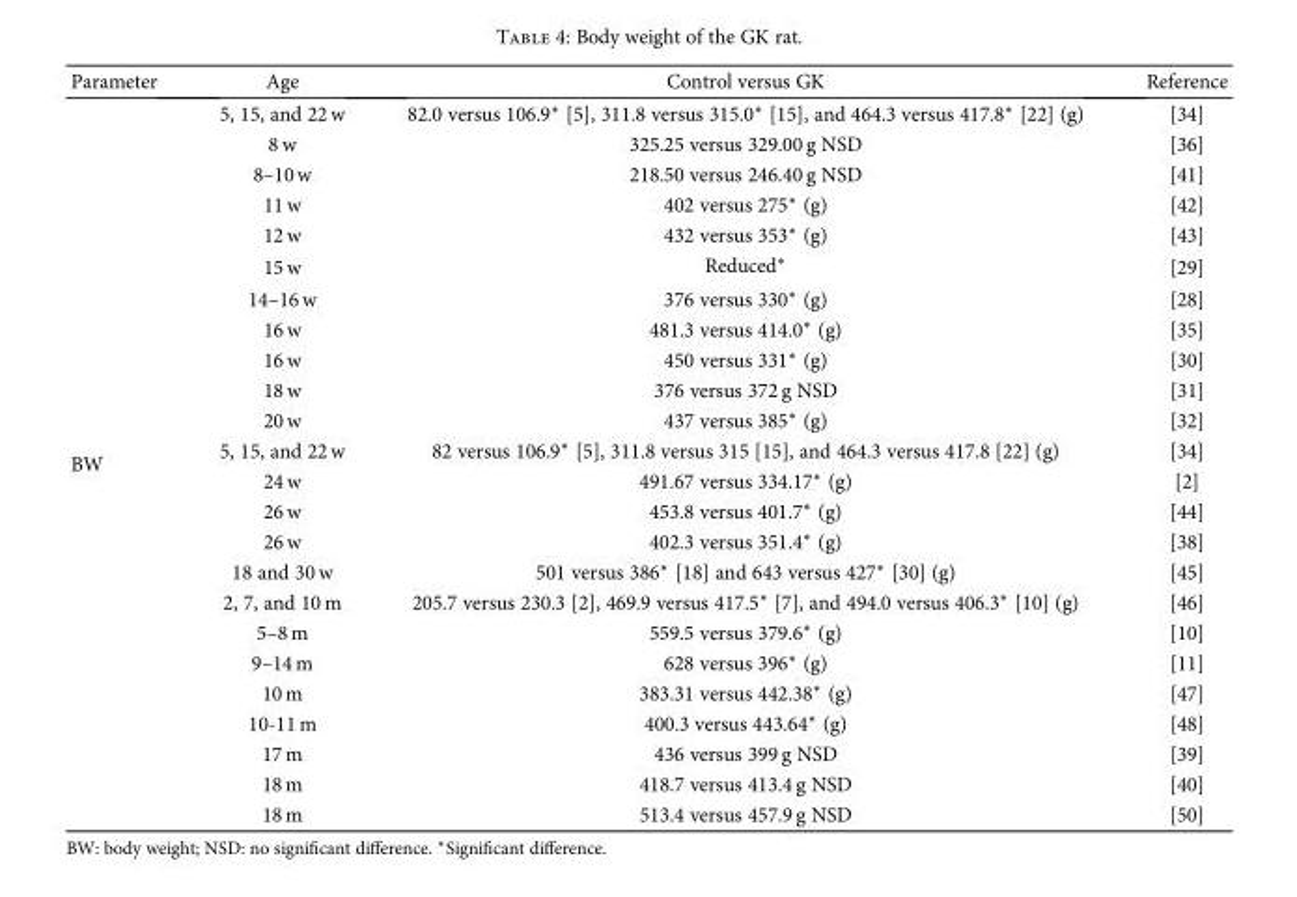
<table><thead><tr><td>Parameter</td><td>Age</td><td>Control versus GK</td><td>Reference</td></tr></thead><tbody><tr><td rowspan="24">BW</td><td>5, 15, and 22 w</td><td>82.0 versus 106.9∗ [5], 311.8 versus 315.0∗ [15], and 464.3 versus 417.8∗ [22] (g)</td><td>[34]</td></tr><tr><td>8 w</td><td>325.25 versus 329.00 g NSD</td><td>[36]</td></tr><tr><td>8–10 w</td><td>218.50 versus 246.40 g NSD</td><td>[41]</td></tr><tr><td>11 w</td><td>402 versus 275∗ (g)</td><td>[42]</td></tr><tr><td>12 w</td><td>432 versus 353∗ (g)</td><td>[43]</td></tr><tr><td>15 w</td><td>Reduced∗</td><td>[29]</td></tr><tr><td>14–16 w</td><td>376 versus 330∗ (g)</td><td>[28]</td></tr><tr><td>16 w</td><td>481.3 versus 414.0∗ (g)</td><td>[35]</td></tr><tr><td>16 w</td><td>450 versus 331∗ (g)</td><td>[30]</td></tr><tr><td>18 w</td><td>376 versus 372 g NSD</td><td>[31]</td></tr><tr><td>20 w</td><td>437 versus 385∗ (g)</td><td>[32]</td></tr><tr><td>5, 15, and 22 w</td><td>82 versus 106.9∗ [5], 311.8 versus 315 [15], and 464.3 versus 417.8 [22] (g)</td><td>[34]</td></tr><tr><td>24 w</td><td>491.67 versus 334.17∗ (g)</td><td>[2]</td></tr><tr><td>26 w</td><td>453.8 versus 401.7∗ (g)</td><td>[44]</td></tr><tr><td>26 w</td><td>402.3 versus 351.4∗ (g)</td><td>[38]</td></tr><tr><td>18 and 30 w</td><td>501 versus 386∗ [18] and 643 versus 427∗ [30] (g)</td><td>[45]</td></tr><tr><td>2, 7, and 10 m</td><td>205.7 versus 230.3 [2], 469.9 versus 417.5∗ [7], and 494.0 versus 406.3∗ [10] (g)</td><td>[46]</td></tr><tr><td>5–8 m</td><td>559.5 versus 379.6∗ (g)</td><td>[10]</td></tr><tr><td>9–14 m</td><td>628 versus 396∗ (g)</td><td>[11]</td></tr><tr><td>10 m</td><td>383.31 versus 442.38∗ (g)</td><td>[47]</td></tr><tr><td>10-11 m</td><td>400.3 versus 443.64∗ (g)</td><td>[48]</td></tr><tr><td>17 m</td><td>436 versus 399 g NSD</td><td>[39]</td></tr><tr><td>18 m</td><td>418.7 versus 413.4 g NSD</td><td>[40]</td></tr><tr><td>18 m</td><td>513.4 versus 457.9 g NSD</td><td>[50]</td></tr></tbody></table>